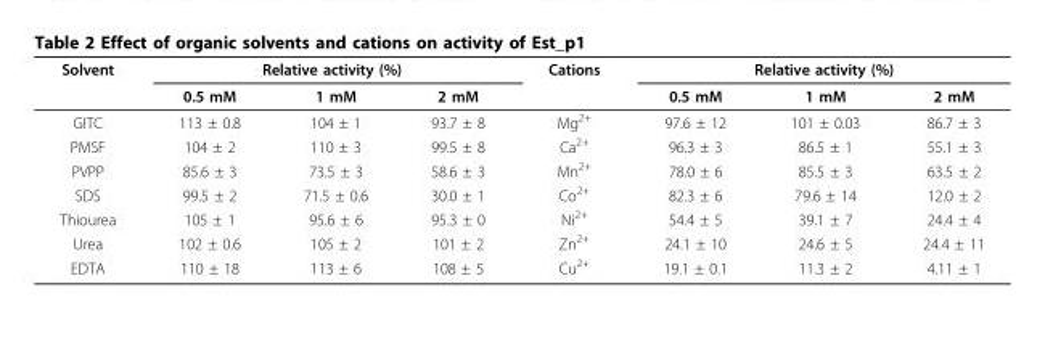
<table><thead><tr><td rowspan="2">Solvent</td><td colspan="3">Relative activity (%)</td><td rowspan="2">Cations</td><td colspan="3">Relative activity (%)</td></tr><tr><td>0.5 mM</td><td>1 mM</td><td>2 mM</td><td>0.5 mM</td><td>1 mM</td><td>2 mM</td></tr></thead><tbody><tr><td>GITC</td><td>113 ± 0.8</td><td>104 ± 1</td><td>93.7 ± 8</td><td>Mg<sup>2+</sup></td><td>97.6 ± 12</td><td>101 ± 0.03</td><td>86.7 ± 3</td></tr><tr><td>PMSF</td><td>104 ± 2</td><td>110 ± 3</td><td>99.5 ± 8</td><td>Ca<sup>2+</sup></td><td>96.3 ± 3</td><td>86.5 ± 1</td><td>55.1 ± 3</td></tr><tr><td>PVPP</td><td>85.6 ± 3</td><td>73.5 ± 3</td><td>58.6 ± 3</td><td>Mn<sup>2+</sup></td><td>78.0 ± 6</td><td>85.5 ± 3</td><td>63.5 ± 2</td></tr><tr><td>SDS</td><td>99.5 ± 2</td><td>71.5 ± 0.6</td><td>30.0 ± 1</td><td>Co<sup>2+</sup></td><td>82.3 ± 6</td><td>79.6 ± 14</td><td>12.0 ± 2</td></tr><tr><td>Thiourea</td><td>105 ± 1</td><td>95.6 ± 6</td><td>95.3 ± 0</td><td>Ni<sup>2+</sup></td><td>54.4 ± 5</td><td>39.1 ± 7</td><td>24.4 ± 4</td></tr><tr><td>Urea</td><td>102 ± 0.6</td><td>105 ± 2</td><td>101 ± 2</td><td>Zn<sup>2+</sup></td><td>24.1 ± 10</td><td>24.6 ± 5</td><td>24.4 ± 11</td></tr><tr><td>EDTA</td><td>110 ± 18</td><td>113 ± 6</td><td>108 ± 5</td><td>Cu<sup>2+</sup></td><td>19.1 ± 0.1</td><td>11.3 ± 2</td><td>4.11 ± 1</td></tr></tbody></table>